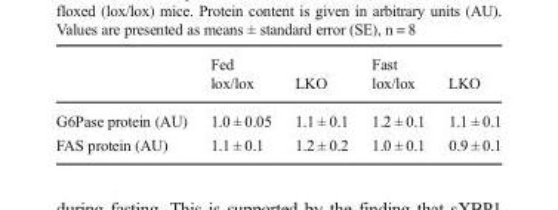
<table><thead><tr><td rowspan="2"></td><td rowspan="2">Fed lox/lox</td><td rowspan="2">LKO</td><td rowspan="2">Fast lox/lox</td><td rowspan="2">LKO</td></tr><tr></tr></thead><tbody><tr><td>G6Pase protein (AU)</td><td>1.0 ± 0.05</td><td>1.1 ± 0.1</td><td>1.2 ± 0.1</td><td>1.1 ± 0.1</td></tr><tr><td>FAS protein (AU)</td><td>1.1 ± 0.1</td><td>1.2 ± 0.2</td><td>1.0 ± 0.1</td><td>0.9 ± 0.1</td></tr></tbody></table>